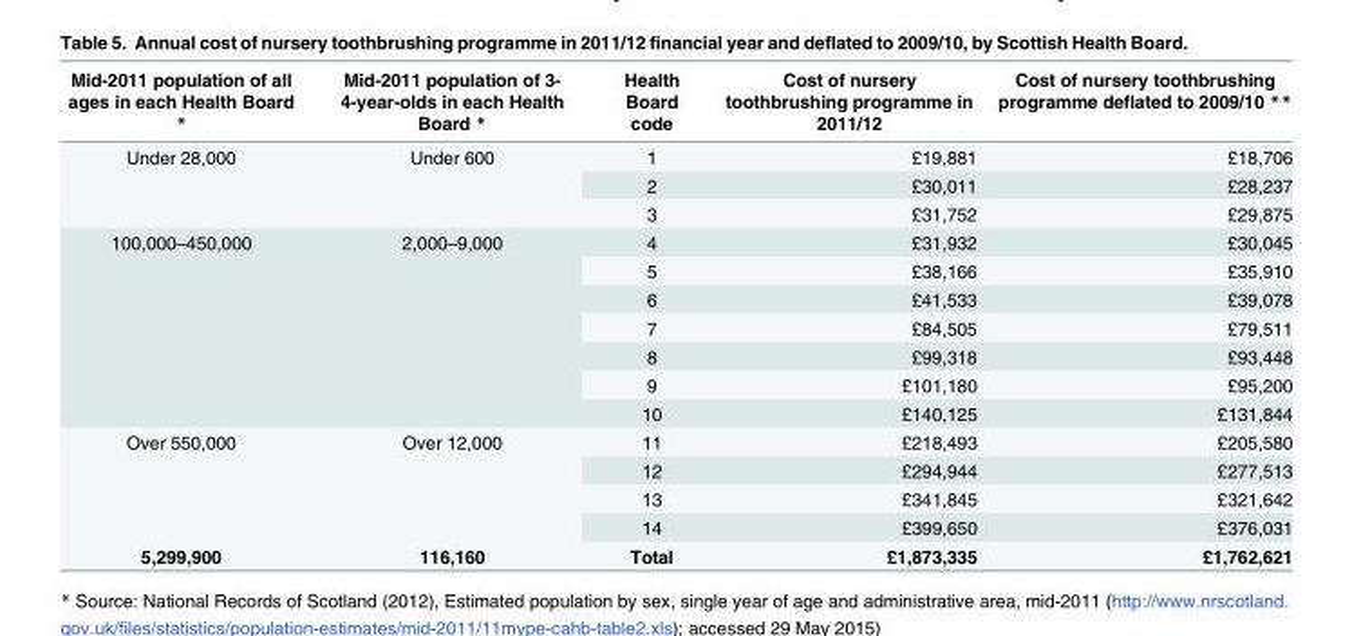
<table><thead><tr><td>Mid-2011 population of all ages in each Health Board *</td><td>Mid-2011 population of 3- 4-year-olds in each Health Board *</td><td>Health Board code</td><td>Cost of nursery toothbrushing programme in 2011/12</td><td>Cost of nursery toothbrushing programme deflated to 2009/10 **</td></tr></thead><tbody><tr><td rowspan="3">Under 28,000</td><td rowspan="3">Under 600</td><td>1</td><td>£19,881</td><td>£18,706</td></tr><tr><td>2</td><td>£30,011</td><td>£28,237</td></tr><tr><td>3</td><td>£31,752</td><td>£29,875</td></tr><tr><td rowspan="7">100,000–450,000</td><td rowspan="7">2,000–9,000</td><td>4</td><td>£31,932</td><td>£30,045</td></tr><tr><td>5</td><td>£38,166</td><td>£35,910</td></tr><tr><td>6</td><td>£41,533</td><td>£39,078</td></tr><tr><td>7</td><td>£84,505</td><td>£79,511</td></tr><tr><td>8</td><td>£99,318</td><td>£93,448</td></tr><tr><td>9</td><td>£101,180</td><td>£95,200</td></tr><tr><td>10</td><td>£140,125</td><td>£131,844</td></tr><tr><td rowspan="4">Over 550,000</td><td rowspan="4">Over 12,000</td><td>11</td><td>£218,493</td><td>£205,580</td></tr><tr><td>12</td><td>£294,944</td><td>£277,513</td></tr><tr><td>13</td><td>£341,845</td><td>£321,642</td></tr><tr><td>14</td><td>£399,650</td><td>£376,031</td></tr><tr><td>5,299,900</td><td>116,160</td><td>Total</td><td>£1,873,335</td><td>£1,762,621</td></tr></tbody></table>